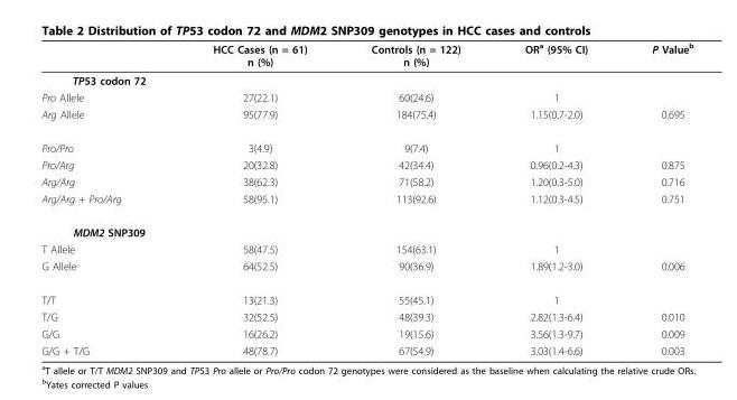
<table><thead><tr><td></td><td>HCC Cases (n = 61) n (%)</td><td>Controls (n = 122) n (%)</td><td>OR<sup>a</sup> (95% CI)</td><td>P Value<sup>b</sup></td></tr></thead><tbody><tr><td colspan="5">TP53 codon 72</td></tr><tr><td>Pro Allele</td><td>27(22.1)</td><td>60(24.6)</td><td>1</td><td></td></tr><tr><td>Arg Allele</td><td>95(77.9)</td><td>184(75.4)</td><td>1.15(0.7-2.0)</td><td>0.695</td></tr><tr><td>Pro/Pro</td><td>3(4.9)</td><td>9(7.4)</td><td>1</td><td></td></tr><tr><td>Pro/Arg</td><td>20(32.8)</td><td>42(34.4)</td><td>0.96(0.2-4.3)</td><td>0.875</td></tr><tr><td>Arg/Arg</td><td>38(62.3)</td><td>71(58.2)</td><td>1.20(0.3-5.0)</td><td>0.716</td></tr><tr><td>Arg/Arg + Pro/Arg</td><td>58(95.1)</td><td>113(92.6)</td><td>1.12(0.3-4.5)</td><td>0.751</td></tr><tr><td colspan="5">MDM2 SNP309</td></tr><tr><td>T Allele</td><td>58(47.5)</td><td>154(63.1)</td><td>1</td><td></td></tr><tr><td>G Allele</td><td>64(52.5)</td><td>90(36.9)</td><td>1.89(1.2-3.0)</td><td>0.006</td></tr><tr><td>T/T</td><td>13(21.3)</td><td>55(45.1)</td><td>1</td><td></td></tr><tr><td>T/G</td><td>32(52.5)</td><td>48(39.3)</td><td>2.82(1.3-6.4)</td><td>0.010</td></tr><tr><td>G/G</td><td>16(26.2)</td><td>19(15.6)</td><td>3.56(1.3-9.7)</td><td>0.009</td></tr><tr><td>G/G + T/G</td><td>48(78.7)</td><td>67(54.9)</td><td>3.03(1.4-6.6)</td><td>0.003</td></tr></tbody></table>